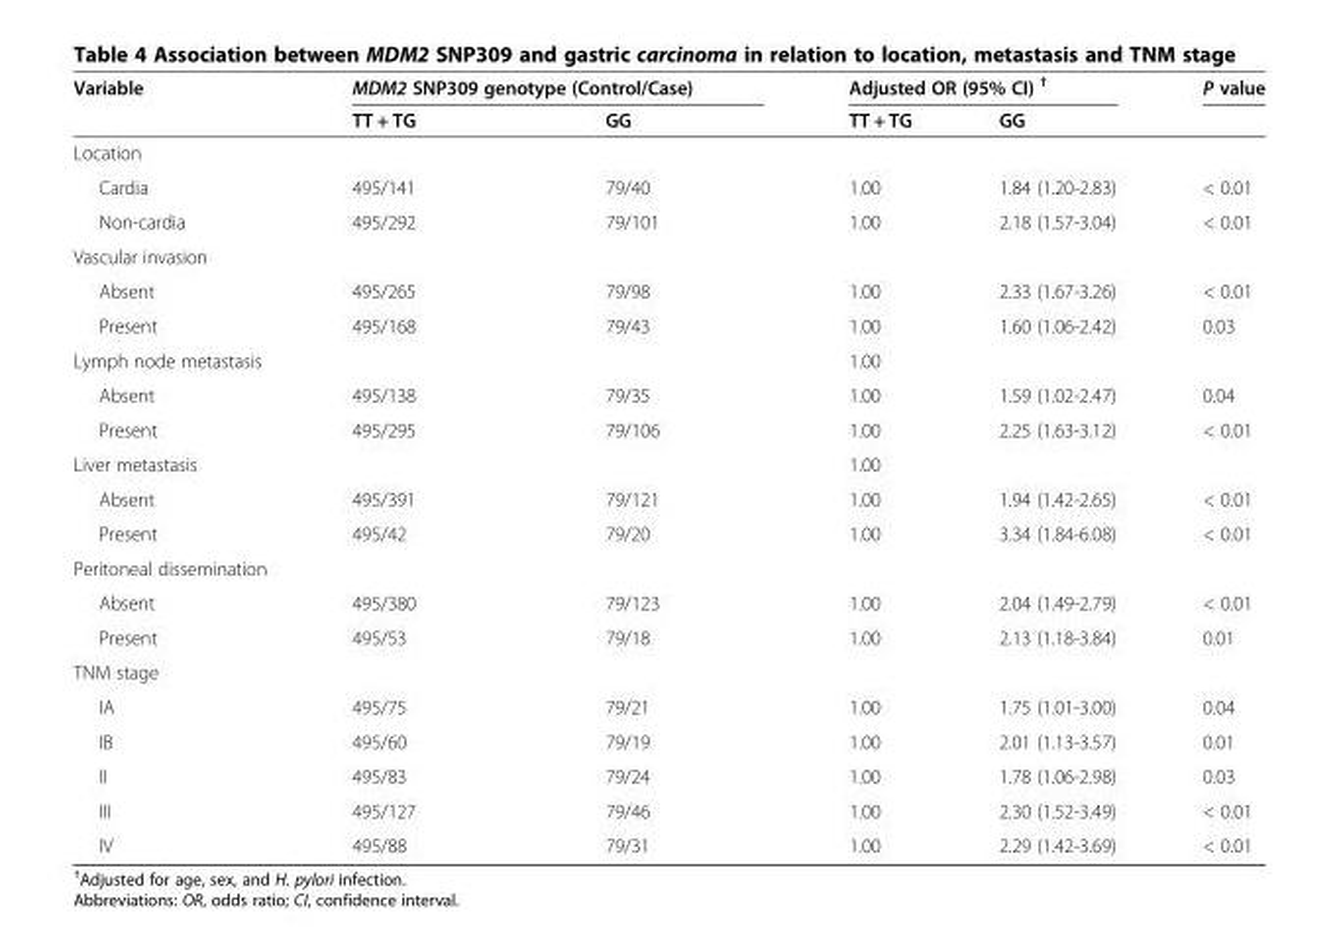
<table><thead><tr><td rowspan="2">Variable</td><td colspan="2">MDM2 SNP309 genotype (Control/Case)</td><td colspan="2">Adjusted OR (95% CI) <sup>†</sup></td><td rowspan="2">P value</td></tr><tr><td>TT + TG</td><td>GG</td><td>TT + TG</td><td>GG</td></tr></thead><tbody><tr><td colspan="6">Location</td></tr><tr><td>Cardia</td><td>495/141</td><td>79/40</td><td>1.00</td><td>1.84 (1.20-2.83)</td><td>&lt; 0.01</td></tr><tr><td>Non-cardia</td><td>495/292</td><td>79/101</td><td>1.00</td><td>2.18 (1.57-3.04)</td><td>&lt; 0.01</td></tr><tr><td colspan="6">Vascular invasion</td></tr><tr><td>Absent</td><td>495/265</td><td>79/98</td><td>1.00</td><td>2.33 (1.67-3.26)</td><td>&lt; 0.01</td></tr><tr><td>Present</td><td>495/168</td><td>79/43</td><td>1.00</td><td>1.60 (1.06-2.42)</td><td>0.03</td></tr><tr><td>Lymph node metastasis</td><td></td><td></td><td>1.00</td><td></td><td></td></tr><tr><td>Absent</td><td>495/138</td><td>79/35</td><td>1.00</td><td>1.59 (1.02-2.47)</td><td>0.04</td></tr><tr><td>Present</td><td>495/295</td><td>79/106</td><td>1.00</td><td>2.25 (1.63-3.12)</td><td>&lt; 0.01</td></tr><tr><td>Liver metastasis</td><td></td><td></td><td>1.00</td><td></td><td></td></tr><tr><td>Absent</td><td>495/391</td><td>79/121</td><td>1.00</td><td>1.94 (1.42-2.65)</td><td>&lt; 0.01</td></tr><tr><td>Present</td><td>495/42</td><td>79/20</td><td>1.00</td><td>3.34 (1.84-6.08)</td><td>&lt; 0.01</td></tr><tr><td colspan="6">Peritoneal dissemination</td></tr><tr><td>Absent</td><td>495/380</td><td>79/123</td><td>1.00</td><td>2.04 (1.49-2.79)</td><td>&lt; 0.01</td></tr><tr><td>Present</td><td>495/53</td><td>79/18</td><td>1.00</td><td>2.13 (1.18-3.84)</td><td>0.01</td></tr><tr><td colspan="6">TNM stage</td></tr><tr><td>IA</td><td>495/75</td><td>79/21</td><td>1.00</td><td>1.75 (1.01-3.00)</td><td>0.04</td></tr><tr><td>IB</td><td>495/60</td><td>79/19</td><td>1.00</td><td>2.01 (1.13-3.57)</td><td>0.01</td></tr><tr><td>II</td><td>495/83</td><td>79/24</td><td>1.00</td><td>1.78 (1.06-2.98)</td><td>0.03</td></tr><tr><td>III</td><td>495/127</td><td>79/46</td><td>1.00</td><td>2.30 (1.52-3.49)</td><td>&lt; 0.01</td></tr><tr><td>IV</td><td>495/88</td><td>79/31</td><td>1.00</td><td>2.29 (1.42-3.69)</td><td>&lt; 0.01</td></tr></tbody></table>